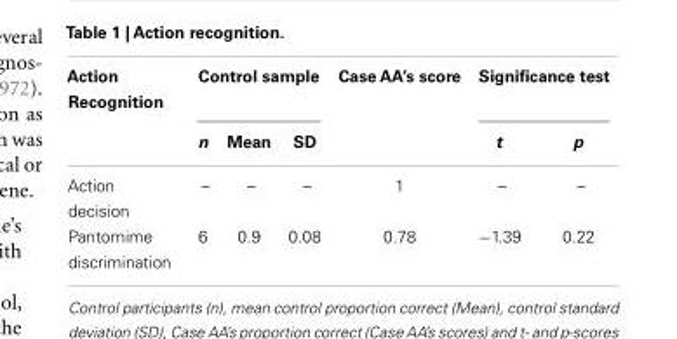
<table><thead><tr><td rowspan="2">Action Recognition</td><td colspan="3">Control sample</td><td rowspan="2">Case AA’s score</td><td colspan="2">Significance test</td></tr><tr><td>n</td><td>Mean</td><td>SD</td><td>t</td><td>p</td></tr></thead><tbody><tr><td>Action decision</td><td>–</td><td>–</td><td>–</td><td>1</td><td>–</td><td>–</td></tr><tr><td>Pantomime discrimination</td><td>6</td><td>0.9</td><td>0.08</td><td>0.78</td><td>−1.39</td><td>0.22</td></tr></tbody></table>